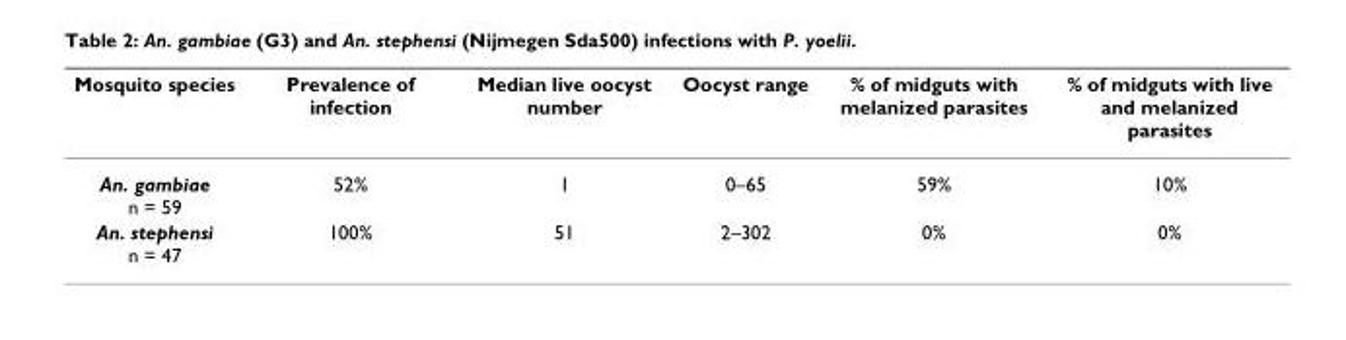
<table><thead><tr><td>Mosquito species</td><td>Prevalence of infection</td><td>Median live oocyst number</td><td>Oocyst range</td><td>% of midguts with melanized parasites</td><td>% of midguts with live and melanized parasites</td></tr></thead><tbody><tr><td>An. gambiae n = 59</td><td>52%</td><td>1</td><td>0–65</td><td>59%</td><td>10%</td></tr><tr><td>An. stephensi n = 47</td><td>100%</td><td>51</td><td>2–302</td><td>0%</td><td>0%</td></tr></tbody></table>